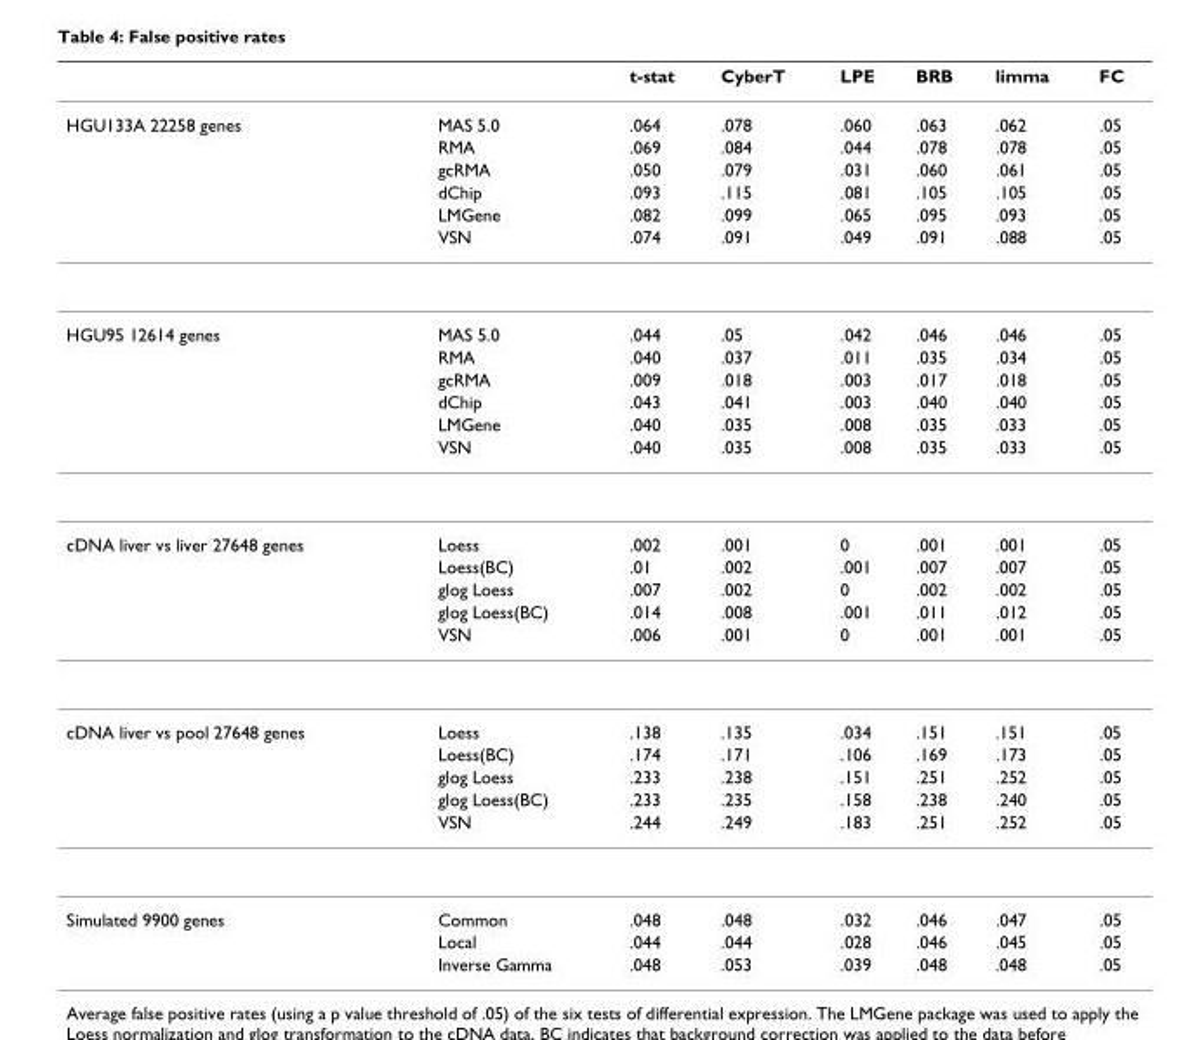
<table><thead><tr><td></td><td></td><td>t-stat</td><td>CyberT</td><td>LPE</td><td>BRB</td><td>limma</td><td>FC</td></tr></thead><tbody><tr><td rowspan="6">HGU133A 22258 genes</td><td>MAS 5.0</td><td>.064</td><td>.078</td><td>.060</td><td>.063</td><td>.062</td><td>.05</td></tr><tr><td>RMA</td><td>.069</td><td>.084</td><td>.044</td><td>.078</td><td>.078</td><td>.05</td></tr><tr><td>gcRMA</td><td>.050</td><td>.079</td><td>.031</td><td>.060</td><td>.061</td><td>.05</td></tr><tr><td>dChip</td><td>.093</td><td>.115</td><td>.081</td><td>.105</td><td>.105</td><td>.05</td></tr><tr><td>LMGene</td><td>.082</td><td>.099</td><td>.065</td><td>.095</td><td>.093</td><td>.05</td></tr><tr><td>VSN</td><td>.074</td><td>.091</td><td>.049</td><td>.091</td><td>.088</td><td>.05</td></tr><tr><td rowspan="6">HGU95 12614 genes</td><td>MAS 5.0</td><td>.044</td><td>.05</td><td>.042</td><td>.046</td><td>.046</td><td>.05</td></tr><tr><td>RMA</td><td>.040</td><td>.037</td><td>.011</td><td>.035</td><td>.034</td><td>.05</td></tr><tr><td>gcRMA</td><td>.009</td><td>.018</td><td>.003</td><td>.017</td><td>.018</td><td>.05</td></tr><tr><td>dChip</td><td>.043</td><td>.041</td><td>.003</td><td>.040</td><td>.040</td><td>.05</td></tr><tr><td>LMGene</td><td>.040</td><td>.035</td><td>.008</td><td>.035</td><td>.033</td><td>.05</td></tr><tr><td>VSN</td><td>.040</td><td>.035</td><td>.008</td><td>.035</td><td>.033</td><td>.05</td></tr><tr><td rowspan="5">cDNA liver vs liver 27648 genes</td><td>Loess</td><td>.002</td><td>.001</td><td>0</td><td>.001</td><td>.001</td><td>.05</td></tr><tr><td>Loess(BC)</td><td>.01</td><td>.002</td><td>.001</td><td>.007</td><td>.007</td><td>.05</td></tr><tr><td>glog Loess</td><td>.007</td><td>.002</td><td>0</td><td>.002</td><td>.002</td><td>.05</td></tr><tr><td>glog Loess(BC)</td><td>.014</td><td>.008</td><td>.001</td><td>.011</td><td>.012</td><td>.05</td></tr><tr><td>VSN</td><td>.006</td><td>.001</td><td>0</td><td>.001</td><td>.001</td><td>.05</td></tr><tr><td rowspan="5">cDNA liver vs pool 27648 genes</td><td>Loess</td><td>.138</td><td>.135</td><td>.034</td><td>.151</td><td>.151</td><td>.05</td></tr><tr><td>Loess(BC)</td><td>.174</td><td>.171</td><td>.106</td><td>.169</td><td>.173</td><td>.05</td></tr><tr><td>glog Loess</td><td>.233</td><td>.238</td><td>.151</td><td>.251</td><td>.252</td><td>.05</td></tr><tr><td>glog Loess(BC)</td><td>.233</td><td>.235</td><td>.158</td><td>.238</td><td>.240</td><td>.05</td></tr><tr><td>VSN</td><td>.244</td><td>.249</td><td>.183</td><td>.251</td><td>.252</td><td>.05</td></tr><tr><td rowspan="3">Simulated 9900 genes</td><td>Common</td><td>.048</td><td>.048</td><td>.032</td><td>.046</td><td>.047</td><td>.05</td></tr><tr><td>Local</td><td>.044</td><td>.044</td><td>.028</td><td>.046</td><td>.045</td><td>.05</td></tr><tr><td>Inverse Gamma</td><td>.048</td><td>.053</td><td>.039</td><td>.048</td><td>.048</td><td>.05</td></tr></tbody></table>